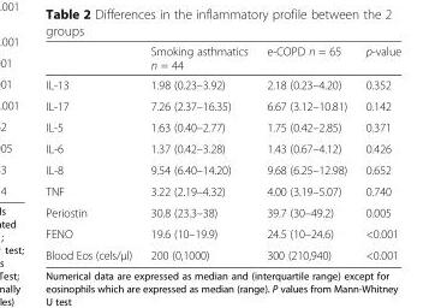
<table><thead><tr><td></td><td>Smoking asthmatics n = 44</td><td>e-COPD n = 65</td><td>p-value</td></tr></thead><tbody><tr><td>IL-13</td><td>1.98 (0.23–3.92)</td><td>2.18 (0.23–4.20)</td><td>0.352</td></tr><tr><td>IL-17</td><td>7.26 (2.37–16.35)</td><td>6.67 (3.12–10.81)</td><td>0.142</td></tr><tr><td>IL-5</td><td>1.63 (0.40–2.77)</td><td>1.75 (0.42–2.85)</td><td>0.371</td></tr><tr><td>IL-6</td><td>1.37 (0.42–3.28)</td><td>1.43 (0.67–4.12)</td><td>0.426</td></tr><tr><td>IL-8</td><td>9.54 (6.40–14.20)</td><td>9.68 (6.25–12.98)</td><td>0.652</td></tr><tr><td>TNF</td><td>3.22 (2.19–4.32)</td><td>4.00 (3.19–5.07)</td><td>0.740</td></tr><tr><td>Periostin</td><td>30.8 (23.3–38)</td><td>39.7 (30–49.2)</td><td>0.005</td></tr><tr><td>FENO</td><td>19.6 (10–19.9)</td><td>24.5 (10–24.6)</td><td>&lt;0.001</td></tr><tr><td>Blood Eos (cels/μl)</td><td>200 (0,1000)</td><td>300 (210,940)</td><td>&lt;0.001</td></tr></tbody></table>